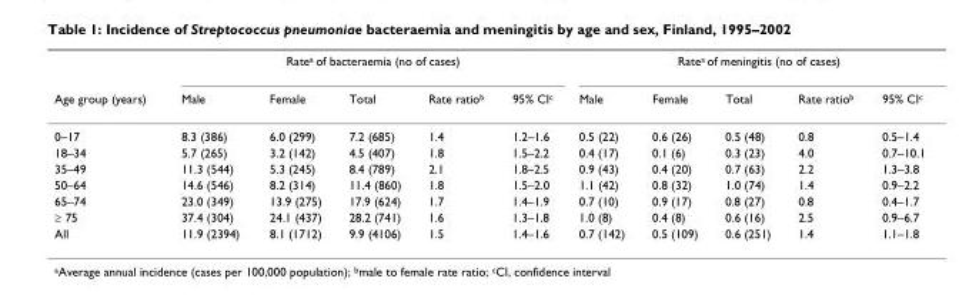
<table><thead><tr><td rowspan="2">Age group (years)</td><td colspan="5">Rate<sup>a</sup> of bacteraemia (no of cases)</td><td colspan="5">Rate<sup>a</sup> of meningitis (no of cases)</td></tr><tr><td>Male</td><td>Female</td><td>Total</td><td>Rate ratio<sup>b</sup></td><td>95% CI<sup>c</sup></td><td>Male</td><td>Female</td><td>Total</td><td>Rate ratio<sup>b</sup></td><td>95% CI<sup>c</sup></td></tr></thead><tbody><tr><td>0–17</td><td>8.3 (386)</td><td>6.0 (299)</td><td>7.2 (685)</td><td>1.4</td><td>1.2–1.6</td><td>0.5 (22)</td><td>0.6 (26)</td><td>0.5 (48)</td><td>0.8</td><td>0.5–1.4</td></tr><tr><td>18–34</td><td>5.7 (265)</td><td>3.2 (142)</td><td>4.5 (407)</td><td>1.8</td><td>1.5–2.2</td><td>0.4 (17)</td><td>0.1 (6)</td><td>0.3 (23)</td><td>4.0</td><td>0.7–10.1</td></tr><tr><td>35–49</td><td>11.3 (544)</td><td>5.3 (245)</td><td>8.4 (789)</td><td>2.1</td><td>1.8–2.5</td><td>0.9 (43)</td><td>0.4 (20)</td><td>0.7 (63)</td><td>2.2</td><td>1.3–3.8</td></tr><tr><td>50–64</td><td>14.6 (546)</td><td>8.2 (314)</td><td>11.4 (860)</td><td>1.8</td><td>1.5–2.0</td><td>1.1 (42)</td><td>0.8 (32)</td><td>1.0 (74)</td><td>1.4</td><td>0.9–2.2</td></tr><tr><td>65–74</td><td>23.0 (349)</td><td>13.9 (275)</td><td>17.9 (624)</td><td>1.7</td><td>1.4–1.9</td><td>0.7 (10)</td><td>0.9 (17)</td><td>0.8 (27)</td><td>0.8</td><td>0.4–1.7</td></tr><tr><td>≥ 75</td><td>37.4 (304)</td><td>24.1 (437)</td><td>28.2 (741)</td><td>1.6</td><td>1.3–1.8</td><td>1.0 (8)</td><td>0.4 (8)</td><td>0.6 (16)</td><td>2.5</td><td>0.9–6.7</td></tr><tr><td>All</td><td>11.9 (2394)</td><td>8.1 (1712)</td><td>9.9 (4106)</td><td>1.5</td><td>1.4–1.6</td><td>0.7 (142)</td><td>0.5 (109)</td><td>0.6 (251)</td><td>1.4</td><td>1.1–1.8</td></tr></tbody></table>